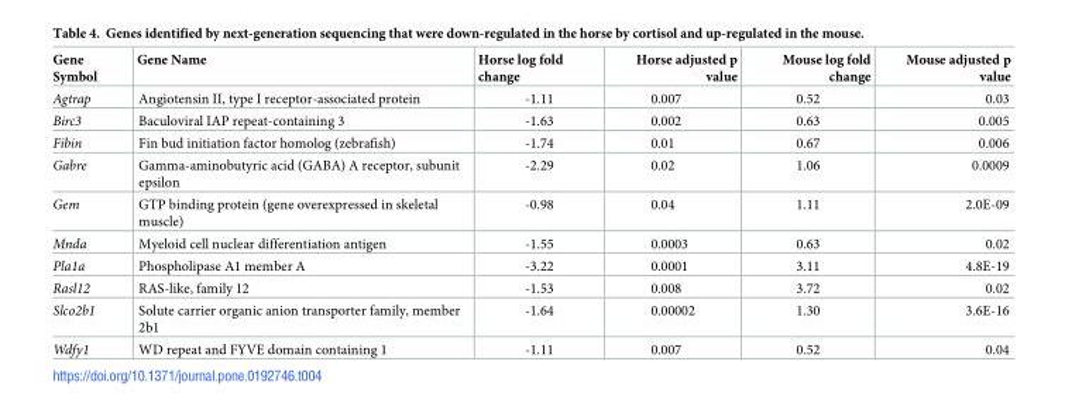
<table><thead><tr><td>Gene Symbol</td><td>Gene Name</td><td>Horse log fold change</td><td>Horse adjusted p value</td><td>Mouse log fold change</td><td>Mouse adjusted p value</td></tr></thead><tbody><tr><td>Agtrap</td><td>Angiotensin II, type I receptor-associated protein</td><td>-1.11</td><td>0.007</td><td>0.52</td><td>0.03</td></tr><tr><td>Birc3</td><td>Baculoviral IAP repeat-containing 3</td><td>-1.63</td><td>0.002</td><td>0.63</td><td>0.005</td></tr><tr><td>Fibin</td><td>Fin bud initiation factor homolog (zebrafish)</td><td>-1.74</td><td>0.01</td><td>0.67</td><td>0.006</td></tr><tr><td>Gabre</td><td>Gamma-aminobutyric acid (GABA) A receptor, subunit epsilon</td><td>-2.29</td><td>0.02</td><td>1.06</td><td>0.0009</td></tr><tr><td>Gem</td><td>GTP binding protein (gene overexpressed in skeletal muscle)</td><td>-0.98</td><td>0.04</td><td>1.11</td><td>2.0E-09</td></tr><tr><td>Mnda</td><td>Myeloid cell nuclear differentiation antigen</td><td>-1.55</td><td>0.0003</td><td>0.63</td><td>0.02</td></tr><tr><td>Pla1a</td><td>Phospholipase A1 member A</td><td>-3.22</td><td>0.0001</td><td>3.11</td><td>4.8E-19</td></tr><tr><td>Rasl12</td><td>RAS-like, family 12</td><td>-1.53</td><td>0.008</td><td>3.72</td><td>0.02</td></tr><tr><td>Slco2b1</td><td>Solute carrier organic anion transporter family, member 2b1</td><td>-1.64</td><td>0.00002</td><td>1.30</td><td>3.6E-16</td></tr><tr><td>Wdfy1</td><td>WD repeat and FYVE domain containing 1</td><td>-1.11</td><td>0.007</td><td>0.52</td><td>0.04</td></tr></tbody></table>